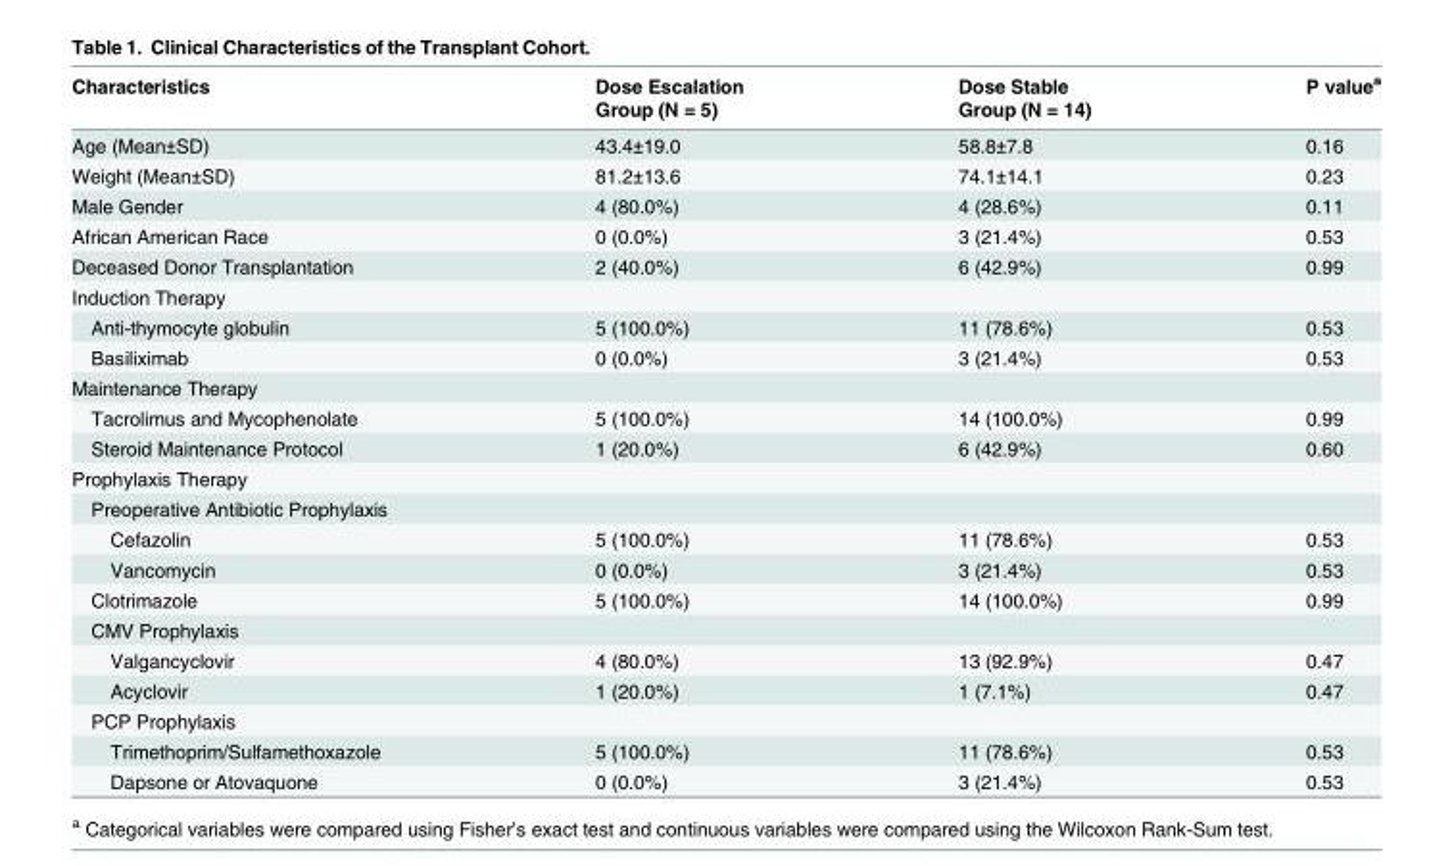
<table><thead><tr><td rowspan="2">Characteristics</td><td rowspan="2">Dose Escalation Group (N = 5)</td><td rowspan="2">Dose Stable Group (N = 14)</td><td rowspan="2">P value<sup>a</sup></td></tr><tr></tr></thead><tbody><tr><td>Age (Mean±SD)</td><td>43.4±19.0</td><td>58.8±7.8</td><td>0.16</td></tr><tr><td>Weight (Mean±SD)</td><td>81.2±13.6</td><td>74.1±14.1</td><td>0.23</td></tr><tr><td>Male Gender</td><td>4 (80.0%)</td><td>4 (28.6%)</td><td>0.11</td></tr><tr><td>African American Race</td><td>0 (0.0%)</td><td>3 (21.4%)</td><td>0.53</td></tr><tr><td>Deceased Donor Transplantation</td><td>2 (40.0%)</td><td>6 (42.9%)</td><td>0.99</td></tr><tr><td colspan="4">Induction Therapy</td></tr><tr><td>Anti-thymocyte globulin</td><td>5 (100.0%)</td><td>11 (78.6%)</td><td>0.53</td></tr><tr><td>Basiliximab</td><td>0 (0.0%)</td><td>3 (21.4%)</td><td>0.53</td></tr><tr><td colspan="4">Maintenance Therapy</td></tr><tr><td>Tacrolimus and Mycophenolate</td><td>5 (100.0%)</td><td>14 (100.0%)</td><td>0.99</td></tr><tr><td>Steroid Maintenance Protocol</td><td>1 (20.0%)</td><td>6 (42.9%)</td><td>0.60</td></tr><tr><td colspan="4">Prophylaxis Therapy</td></tr><tr><td colspan="4">Preoperative Antibiotic Prophylaxis</td></tr><tr><td>Cefazolin</td><td>5 (100.0%)</td><td>11 (78.6%)</td><td>0.53</td></tr><tr><td>Vancomycin</td><td>0 (0.0%)</td><td>3 (21.4%)</td><td>0.53</td></tr><tr><td>Clotrimazole</td><td>5 (100.0%)</td><td>14 (100.0%)</td><td>0.99</td></tr><tr><td colspan="4">CMV Prophylaxis</td></tr><tr><td>Valgancyclovir</td><td>4 (80.0%)</td><td>13 (92.9%)</td><td>0.47</td></tr><tr><td>Acyclovir</td><td>1 (20.0%)</td><td>1 (7.1%)</td><td>0.47</td></tr><tr><td colspan="4">PCP Prophylaxis</td></tr><tr><td>Trimethoprim/Sulfamethoxazole</td><td>5 (100.0%)</td><td>11 (78.6%)</td><td>0.53</td></tr><tr><td>Dapsone or Atovaquone</td><td>0 (0.0%)</td><td>3 (21.4%)</td><td>0.53</td></tr></tbody></table>